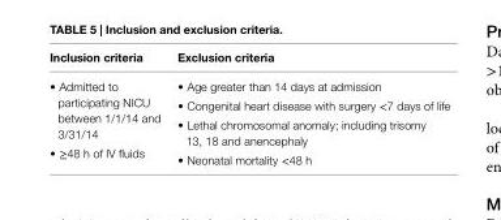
<table><thead><tr><td>inclusion criteria</td><td>Exclusion criteria</td></tr></thead><tbody><tr><td>• Admitted to participating NICU between 1/1/14 and 3/31/14 • ≥48 h of IV fluids</td><td>• Age greater than 14 days at admission • Congenital heart disease with surgery &lt;7 days of life • Lethal chromosomal anomaly; including trisomy 13, 18 and anencephaly • Neonatal mortality &lt;48 h</td></tr></tbody></table>